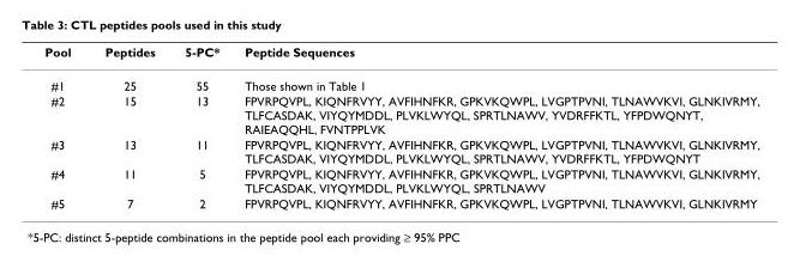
<table><thead><tr><td>Pool</td><td>Peptides</td><td>5-PC*</td><td>Peptide Sequences</td></tr></thead><tbody><tr><td>#1</td><td>25</td><td>55</td><td>Those shown in Table 1</td></tr><tr><td>#2</td><td>15</td><td>13</td><td>FPVRPQVPL, KIQNFRVYY, AVFIHNFKR, GPKVKQWPL, LVGPTPVNI, TLNAWVKVI, GLNKIVRMY, TLFCASDAK, VIYQYMDDL, PLVKLWYQL, SPRTLNAWV, YVDRFFKTL, YFPDWQNYT, RAIEAQQHL, FVNTPPLVK</td></tr><tr><td>#3</td><td>13</td><td>11</td><td>FPVRPQVPL, KIQNFRVYY, AVFIHNFKR, GPKVKQWPL, LVGPTPVNI, TLNAWVKVI, GLNKIVRMY, TLFCASDAK, VIYQYMDDL, PLVKLWYQL, SPRTLNAWV, YVDRFFKTL, YFPDWQNYT</td></tr><tr><td>#4</td><td>11</td><td>5</td><td>FPVRPQVPL, KIQNFRVYY, AVFIHNFKR, GPKVKQWPL, LVGPTPVNI, TLNAWVKVI, GLNKIVRMY, TLFCASDAK, VIYQYMDDL, PLVKLWYQL, SPRTLNAWV</td></tr><tr><td>#5</td><td>7</td><td>2</td><td>FPVRPQVPL, KIQNFRVYY, AVFIHNFKR, GPKVKQWPL, LVGPTPVNI, TLNAWVKVI, GLNKIVRMY</td></tr></tbody></table>